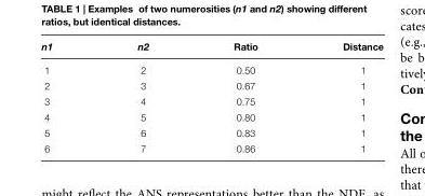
<table><thead><tr><td>n1</td><td>n2</td><td>Ratio</td><td>Distance</td></tr></thead><tbody><tr><td>1</td><td>2</td><td>0.50</td><td>1</td></tr><tr><td>2</td><td>3</td><td>0.67</td><td>1</td></tr><tr><td>3</td><td>4</td><td>0.75</td><td>1</td></tr><tr><td>4</td><td>5</td><td>0.80</td><td>1</td></tr><tr><td>5</td><td>6</td><td>0.83</td><td>1</td></tr><tr><td>6</td><td>7</td><td>0.86</td><td>1</td></tr></tbody></table>